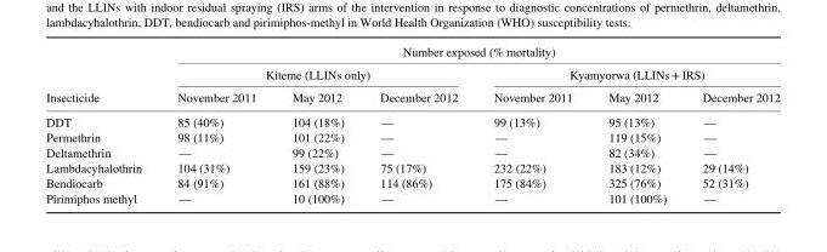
<table><thead><tr><td rowspan="3">Insecticide</td><td colspan="6">Number exposed (% mortality)</td></tr><tr><td colspan="3">Kiteme (LLINs only)</td><td colspan="3">Kyamyorwa (LLINs + IRS)</td></tr><tr><td>November 2011</td><td>May 2012</td><td>December 2012</td><td>November 2011</td><td>May 2012</td><td>December 2012</td></tr></thead><tbody><tr><td>DDT</td><td>85 (40%)</td><td>104 (18%)</td><td>—</td><td>99 (13%)</td><td>95 (13%)</td><td>—</td></tr><tr><td>Permethrin</td><td>98 (11%)</td><td>101 (22%)</td><td>—</td><td>—</td><td>119 (15%)</td><td>—</td></tr><tr><td>Deltamethrin</td><td>—</td><td>99 (22%)</td><td>—</td><td>—</td><td>82 (34%)</td><td>—</td></tr><tr><td>Lambdacyhalothrin</td><td>104 (31%)</td><td>159 (23%)</td><td>75 (17%)</td><td>232 (22%)</td><td>183 (12%)</td><td>29 (14%)</td></tr><tr><td>Bendiocarb</td><td>84 (91%)</td><td>161 (88%)</td><td>114 (86%)</td><td>175 (84%)</td><td>325 (76%)</td><td>52 (31%)</td></tr><tr><td>Pirimiphos methyl</td><td>—</td><td>10 (100%)</td><td>—</td><td>—</td><td>101 (100%)</td><td>—</td></tr></tbody></table>